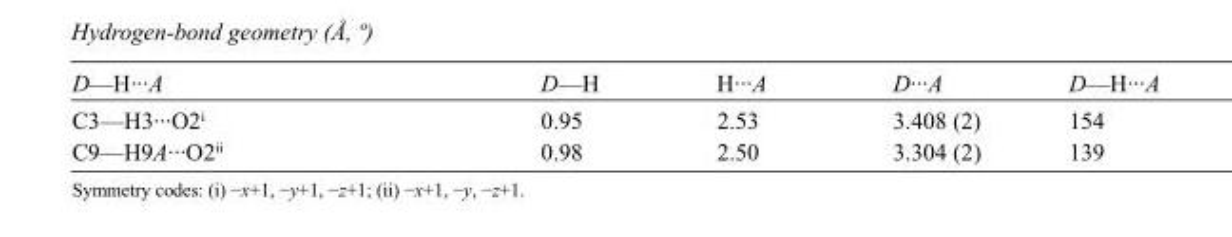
<table><tbody><tr><td>D—H···A</td><td>D—H</td><td>H···A</td><td>D···A</td><td>D—H···A</td></tr><tr><td>C3—H3···O2<sup>i</sup></td><td>0.95</td><td>2.53</td><td>3.408 (2)</td><td>154</td></tr><tr><td>C9—H9A···O2<sup>ii</sup></td><td>0.98</td><td>2.50</td><td>3.304 (2)</td><td>139</td></tr></tbody></table>